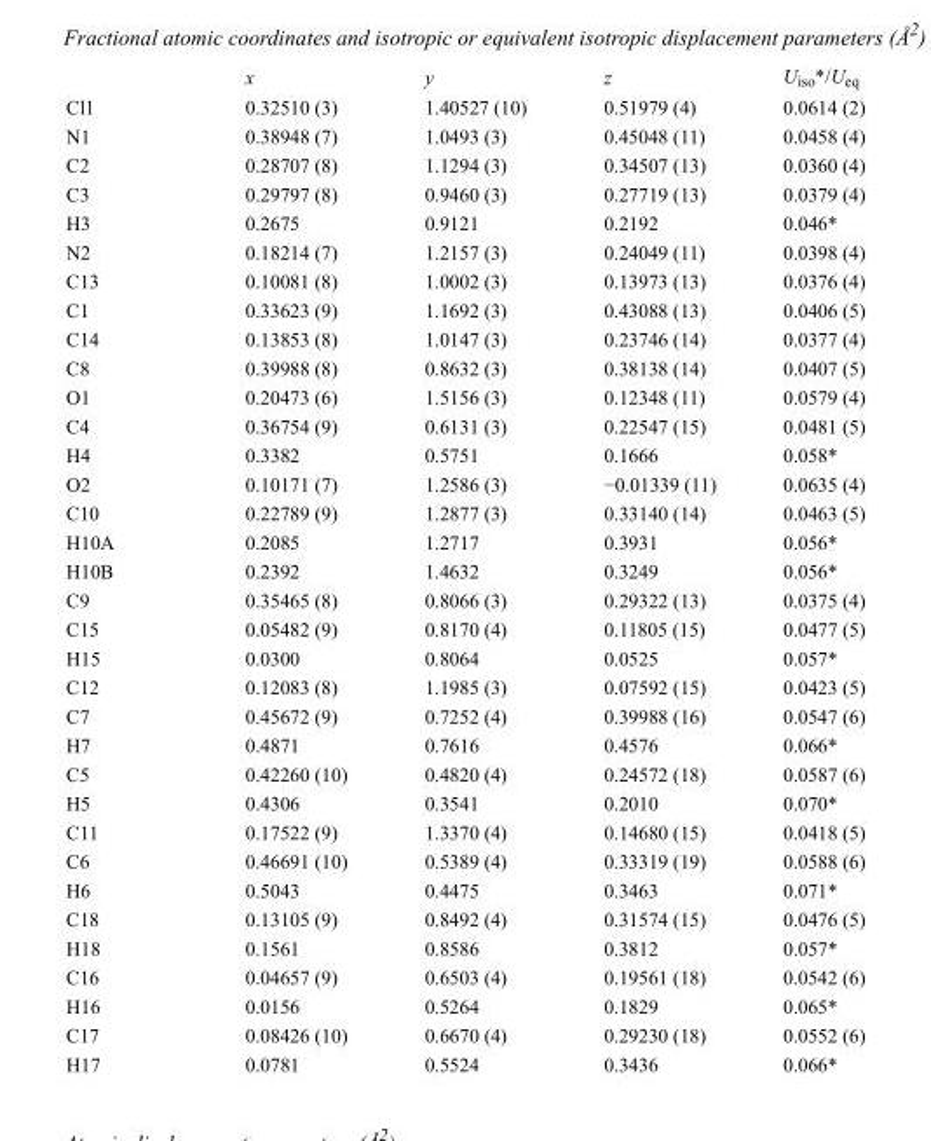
<table><thead><tr><td></td><td>x</td><td>y</td><td>z</td><td>U<sub>iso</sub>*/U<sub>eq</sub></td></tr></thead><tbody><tr><td>Cl1</td><td>0.32510 (3)</td><td>1.40527 (10)</td><td>0.51979 (4)</td><td>0.0614 (2)</td></tr><tr><td>N1</td><td>0.38948 (7)</td><td>1.0493 (3)</td><td>0.45048 (11)</td><td>0.0458 (4)</td></tr><tr><td>C2</td><td>0.28707 (8)</td><td>1.1294 (3)</td><td>0.34507 (13)</td><td>0.0360 (4)</td></tr><tr><td>C3</td><td>0.29797 (8)</td><td>0.9460 (3)</td><td>0.27719 (13)</td><td>0.0379 (4)</td></tr><tr><td>H3</td><td>0.2675</td><td>0.9121</td><td>0.2192</td><td>0.046*</td></tr><tr><td>N2</td><td>0.18214 (7)</td><td>1.2157 (3)</td><td>0.24049 (11)</td><td>0.0398 (4)</td></tr><tr><td>C13</td><td>0.10081 (8)</td><td>1.0002 (3)</td><td>0.13973 (13)</td><td>0.0376 (4)</td></tr><tr><td>C1</td><td>0.33623 (9)</td><td>1.1692 (3)</td><td>0.43088 (13)</td><td>0.0406 (5)</td></tr><tr><td>C14</td><td>0.13853 (8)</td><td>1.0147 (3)</td><td>0.23746 (14)</td><td>0.0377 (4)</td></tr><tr><td>C8</td><td>0.39988 (8)</td><td>0.8632 (3)</td><td>0.38138 (14)</td><td>0.0407 (5)</td></tr><tr><td>O1</td><td>0.20473 (6)</td><td>1.5156 (3)</td><td>0.12348 (11)</td><td>0.0579 (4)</td></tr><tr><td>C4</td><td>0.36754 (9)</td><td>0.6131 (3)</td><td>0.22547 (15)</td><td>0.0481 (5)</td></tr><tr><td>H4</td><td>0.3382</td><td>0.5751</td><td>0.1666</td><td>0.058*</td></tr><tr><td>O2</td><td>0.10171 (7)</td><td>1.2586 (3)</td><td>−0.01339 (11)</td><td>0.0635 (4)</td></tr><tr><td>C10</td><td>0.22789 (9)</td><td>1.2877 (3)</td><td>0.33140 (14)</td><td>0.0463 (5)</td></tr><tr><td>H10A</td><td>0.2085</td><td>1.2717</td><td>0.3931</td><td>0.056*</td></tr><tr><td>H10B</td><td>0.2392</td><td>1.4632</td><td>0.3249</td><td>0.056*</td></tr><tr><td>C9</td><td>0.35465 (8)</td><td>0.8066 (3)</td><td>0.29322 (13)</td><td>0.0375 (4)</td></tr><tr><td>C15</td><td>0.05482 (9)</td><td>0.8170 (4)</td><td>0.11805 (15)</td><td>0.0477 (5)</td></tr><tr><td>H15</td><td>0.0300</td><td>0.8064</td><td>0.0525</td><td>0.057*</td></tr><tr><td>C12</td><td>0.12083 (8)</td><td>1.1985 (3)</td><td>0.07592 (15)</td><td>0.0423 (5)</td></tr><tr><td>C7</td><td>0.45672 (9)</td><td>0.7252 (4)</td><td>0.39988 (16)</td><td>0.0547 (6)</td></tr><tr><td>H7</td><td>0.4871</td><td>0.7616</td><td>0.4576</td><td>0.066*</td></tr><tr><td>C5</td><td>0.42260 (10)</td><td>0.4820 (4)</td><td>0.24572 (18)</td><td>0.0587 (6)</td></tr><tr><td>H5</td><td>0.4306</td><td>0.3541</td><td>0.2010</td><td>0.070*</td></tr><tr><td>C11</td><td>0.17522 (9)</td><td>1.3370 (4)</td><td>0.14680 (15)</td><td>0.0418 (5)</td></tr><tr><td>C6</td><td>0.46691 (10)</td><td>0.5389 (4)</td><td>0.33319 (19)</td><td>0.0588 (6)</td></tr><tr><td>H6</td><td>0.5043</td><td>0.4475</td><td>0.3463</td><td>0.071*</td></tr><tr><td>C18</td><td>0.13105 (9)</td><td>0.8492 (4)</td><td>0.31574 (15)</td><td>0.0476 (5)</td></tr><tr><td>H18</td><td>0.1561</td><td>0.8586</td><td>0.3812</td><td>0.057*</td></tr><tr><td>C16</td><td>0.04657 (9)</td><td>0.6503 (4)</td><td>0.19561 (18)</td><td>0.0542 (6)</td></tr><tr><td>H16</td><td>0.0156</td><td>0.5264</td><td>0.1829</td><td>0.065*</td></tr><tr><td>C17</td><td>0.08426 (10)</td><td>0.6670 (4)</td><td>0.29230 (18)</td><td>0.0552 (6)</td></tr><tr><td>H17</td><td>0.0781</td><td>0.5524</td><td>0.3436</td><td>0.066*</td></tr></tbody></table>